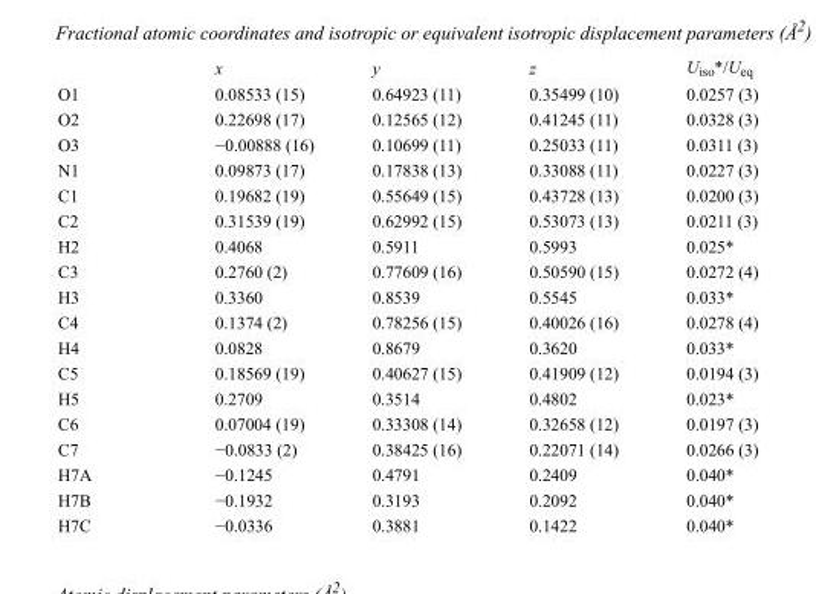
<table><thead><tr><td></td><td>x</td><td>y</td><td>z</td><td>U<sub>iso</sub>*/U<sub>eq</sub></td></tr></thead><tbody><tr><td>O1</td><td>0.08533 (15)</td><td>0.64923 (11)</td><td>0.35499 (10)</td><td>0.0257 (3)</td></tr><tr><td>O2</td><td>0.22698 (17)</td><td>0.12565 (12)</td><td>0.41245 (11)</td><td>0.0328 (3)</td></tr><tr><td>O3</td><td>−0.00888 (16)</td><td>0.10699 (11)</td><td>0.25033 (11)</td><td>0.0311 (3)</td></tr><tr><td>N1</td><td>0.09873 (17)</td><td>0.17838 (13)</td><td>0.33088 (11)</td><td>0.0227 (3)</td></tr><tr><td>C1</td><td>0.19682 (19)</td><td>0.55649 (15)</td><td>0.43728 (13)</td><td>0.0200 (3)</td></tr><tr><td>C2</td><td>0.31539 (19)</td><td>0.62992 (15)</td><td>0.53073 (13)</td><td>0.0211 (3)</td></tr><tr><td>H2</td><td>0.4068</td><td>0.5911</td><td>0.5993</td><td>0.025*</td></tr><tr><td>C3</td><td>0.2760 (2)</td><td>0.77609 (16)</td><td>0.50590 (15)</td><td>0.0272 (4)</td></tr><tr><td>H3</td><td>0.3360</td><td>0.8539</td><td>0.5545</td><td>0.033*</td></tr><tr><td>C4</td><td>0.1374 (2)</td><td>0.78256 (15)</td><td>0.40026 (16)</td><td>0.0278 (4)</td></tr><tr><td>H4</td><td>0.0828</td><td>0.8679</td><td>0.3620</td><td>0.033*</td></tr><tr><td>C5</td><td>0.18569 (19)</td><td>0.40627 (15)</td><td>0.41909 (12)</td><td>0.0194 (3)</td></tr><tr><td>H5</td><td>0.2709</td><td>0.3514</td><td>0.4802</td><td>0.023*</td></tr><tr><td>C6</td><td>0.07004 (19)</td><td>0.33308 (14)</td><td>0.32658 (12)</td><td>0.0197 (3)</td></tr><tr><td>C7</td><td>−0.0833 (2)</td><td>0.38425 (16)</td><td>0.22071 (14)</td><td>0.0266 (3)</td></tr><tr><td>H7A</td><td>−0.1245</td><td>0.4791</td><td>0.2409</td><td>0.040*</td></tr><tr><td>H7B</td><td>−0.1932</td><td>0.3193</td><td>0.2092</td><td>0.040*</td></tr><tr><td>H7C</td><td>−0.0336</td><td>0.3881</td><td>0.1422</td><td>0.040*</td></tr></tbody></table>